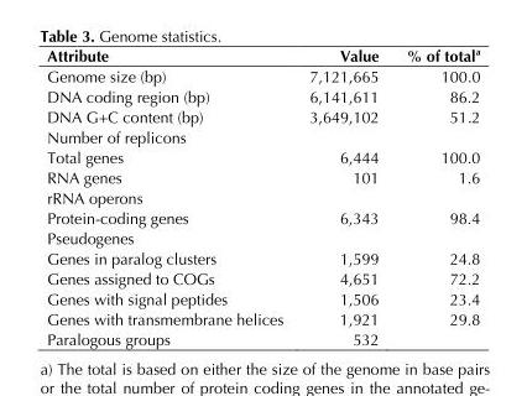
<table><thead><tr><td>Attribute</td><td>Value</td><td>% of total<sup>a</sup></td></tr></thead><tbody><tr><td>Genome size (bp)</td><td>7,121,665</td><td>100.0</td></tr><tr><td>DNA coding region (bp)</td><td>6,141,611</td><td>86.2</td></tr><tr><td>DNA G+C content (bp)</td><td>3,649,102</td><td>51.2</td></tr><tr><td colspan="3">Number of replicons</td></tr><tr><td>Total genes</td><td>6,444</td><td>100.0</td></tr><tr><td>RNA genes</td><td>101</td><td>1.6</td></tr><tr><td colspan="3">rRNA operons</td></tr><tr><td>Protein-coding genes</td><td>6,343</td><td>98.4</td></tr><tr><td colspan="3">Pseudogenes</td></tr><tr><td>Genes in paralog clusters</td><td>1,599</td><td>24.8</td></tr><tr><td>Genes assigned to COGs</td><td>4,651</td><td>72.2</td></tr><tr><td>Genes with signal peptides</td><td>1,506</td><td>23.4</td></tr><tr><td>Genes with transmembrane helices</td><td>1,921</td><td>29.8</td></tr><tr><td>Paralogous groups</td><td>532</td><td></td></tr></tbody></table>